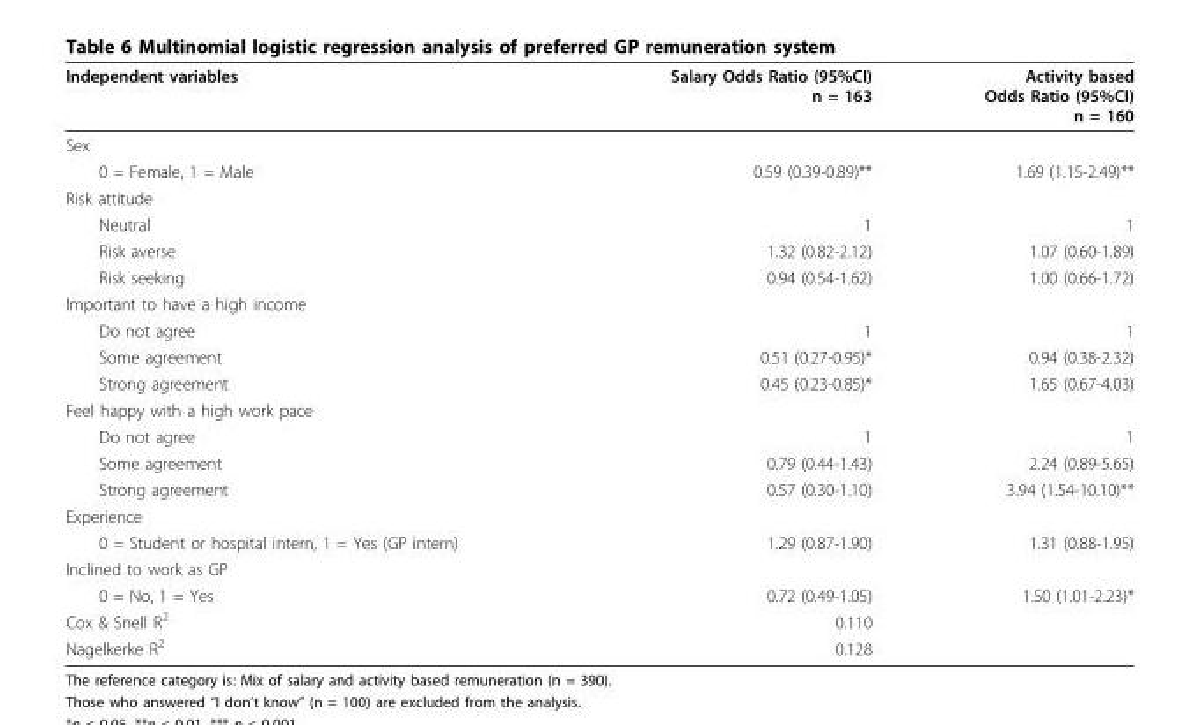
<table><thead><tr><td>Independent variables</td><td>Salary Odds Ratio (95%CI) n = 163</td><td>Activity based Odds Ratio (95%CI) n = 160</td></tr></thead><tbody><tr><td colspan="3">Sex</td></tr><tr><td>0 = Female, 1 = Male</td><td>0.59 (0.39-0.89)**</td><td>1.69 (1.15-2.49)**</td></tr><tr><td colspan="3">Risk attitude</td></tr><tr><td>Neutral</td><td>1</td><td>1</td></tr><tr><td>Risk averse</td><td>1.32 (0.82-2.12)</td><td>1.07 (0.60-1.89)</td></tr><tr><td>Risk seeking</td><td>0.94 (0.54-1.62)</td><td>1.00 (0.66-1.72)</td></tr><tr><td colspan="3">Important to have a high income</td></tr><tr><td>Do not agree</td><td>1</td><td>1</td></tr><tr><td>Some agreement</td><td>0.51 (0.27-0.95)*</td><td>0.94 (0.38-2.32)</td></tr><tr><td>Strong agreement</td><td>0.45 (0.23-0.85)*</td><td>1.65 (0.67-4.03)</td></tr><tr><td colspan="3">Feel happy with a high work pace</td></tr><tr><td>Do not agree</td><td>1</td><td>1</td></tr><tr><td>Some agreement</td><td>0.79 (0.44-1.43)</td><td>2.24 (0.89-5.65)</td></tr><tr><td>Strong agreement</td><td>0.57 (0.30-1.10)</td><td>3.94 (1.54-10.10)**</td></tr><tr><td colspan="3">Experience</td></tr><tr><td>0 = Student or hospital intern, 1 = Yes (GP intern)</td><td>1.29 (0.87-1.90)</td><td>1.31 (0.88-1.95)</td></tr><tr><td colspan="3">Inclined to work as GP</td></tr><tr><td>0 = No, 1 = Yes</td><td>0.72 (0.49-1.05)</td><td>1.50 (1.01-2.23)*</td></tr><tr><td>Cox &amp; Snell R<sup>2</sup></td><td>0.110</td><td></td></tr><tr><td>Nagelkerke R<sup>2</sup></td><td>0.128</td><td></td></tr></tbody></table>